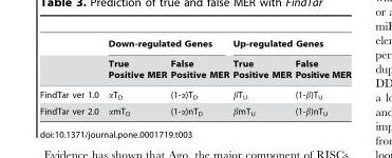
<table><thead><tr><td rowspan="2"></td><td colspan="2">Down-regulated Genes</td><td colspan="2">Up-regulated Genes</td></tr><tr><td>True Positive MER</td><td>False Positive MER</td><td>True Positive MER</td><td>False Positive MER</td></tr></thead><tbody><tr><td>FindTar ver 1.0</td><td>αT<sub>D</sub></td><td>(1-α)T<sub>D</sub></td><td>βT<sub>U</sub></td><td>(1-β)T<sub>U</sub></td></tr><tr><td>FindTar ver 2.0</td><td>αmT<sub>D</sub></td><td>(1-α)nT<sub>D</sub></td><td>βmT<sub>U</sub></td><td>(1-β)nT<sub>U</sub></td></tr></tbody></table>